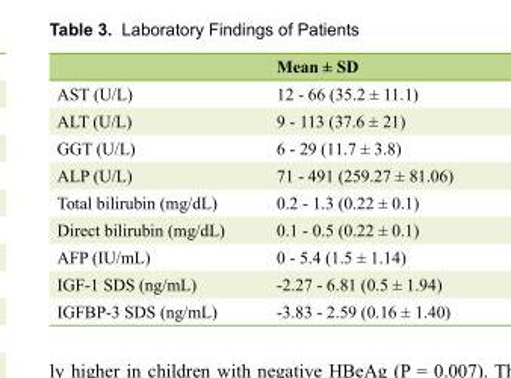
<table><thead><tr><td></td><td>Mean ± SD</td></tr></thead><tbody><tr><td>AST (U/L)</td><td>12 - 66 (35.2 ± 11.1)</td></tr><tr><td>ALT (U/L)</td><td>9 - 113 (37.6 ± 21)</td></tr><tr><td>GGT (U/L)</td><td>6 - 29 (11.7 ± 3.8)</td></tr><tr><td>ALP (U/L)</td><td>71 - 491 (259.27 ± 81.06)</td></tr><tr><td>Total bilirubin (mg/dL)</td><td>0.2 - 1.3 (0.22 ± 0.1)</td></tr><tr><td>Direct bilirubin (mg/dL)</td><td>0.1 - 0.5 (0.22 ± 0.1)</td></tr><tr><td>AFP (IU/mL)</td><td>0 - 5.4 (1.5 ± 1.14)</td></tr><tr><td>IGF-1 SDS (ng/mL)</td><td>-2.27 - 6.81 (0.5 ± 1.94)</td></tr><tr><td>IGFBP-3 SDS (ng/mL)</td><td>-3.83 - 2.59 (0.16 ± 1.40)</td></tr></tbody></table>